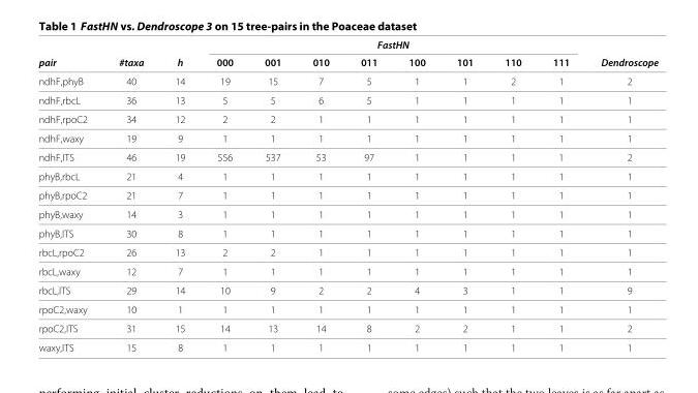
<table><thead><tr><td rowspan="2">pair</td><td rowspan="2">#taxa</td><td rowspan="2">h</td><td colspan="8">FastHN</td><td rowspan="2">Dendroscope</td></tr><tr><td>000</td><td>001</td><td>010</td><td>011</td><td>100</td><td>101</td><td>110</td><td>111</td></tr></thead><tbody><tr><td>ndhF,phyB</td><td>40</td><td>14</td><td>19</td><td>15</td><td>7</td><td>5</td><td>1</td><td>1</td><td>2</td><td>1</td><td>2</td></tr><tr><td>ndhF,rbcL</td><td>36</td><td>13</td><td>5</td><td>5</td><td>6</td><td>5</td><td>1</td><td>1</td><td>1</td><td>1</td><td>1</td></tr><tr><td>ndhF,rpoC2</td><td>34</td><td>12</td><td>2</td><td>2</td><td>1</td><td>1</td><td>1</td><td>1</td><td>1</td><td>1</td><td>1</td></tr><tr><td>ndhF,waxy</td><td>19</td><td>9</td><td>1</td><td>1</td><td>1</td><td>1</td><td>1</td><td>1</td><td>1</td><td>1</td><td>1</td></tr><tr><td>ndhF,ITS</td><td>46</td><td>19</td><td>556</td><td>537</td><td>53</td><td>97</td><td>1</td><td>1</td><td>1</td><td>1</td><td>2</td></tr><tr><td>phyB,rbcL</td><td>21</td><td>4</td><td>1</td><td>1</td><td>1</td><td>1</td><td>1</td><td>1</td><td>1</td><td>1</td><td>1</td></tr><tr><td>phyB,rpoC2</td><td>21</td><td>7</td><td>1</td><td>1</td><td>1</td><td>1</td><td>1</td><td>1</td><td>1</td><td>1</td><td>1</td></tr><tr><td>phyB,waxy</td><td>14</td><td>3</td><td>1</td><td>1</td><td>1</td><td>1</td><td>1</td><td>1</td><td>1</td><td>1</td><td>1</td></tr><tr><td>phyB,ITS</td><td>30</td><td>8</td><td>1</td><td>1</td><td>1</td><td>1</td><td>1</td><td>1</td><td>1</td><td>1</td><td>1</td></tr><tr><td>rbcL,rpoC2</td><td>26</td><td>13</td><td>2</td><td>2</td><td>1</td><td>1</td><td>1</td><td>1</td><td>1</td><td>1</td><td>1</td></tr><tr><td>rbcL,waxy</td><td>12</td><td>7</td><td>1</td><td>1</td><td>1</td><td>1</td><td>1</td><td>1</td><td>1</td><td>1</td><td>1</td></tr><tr><td>rbcL,ITS</td><td>29</td><td>14</td><td>10</td><td>9</td><td>2</td><td>2</td><td>4</td><td>3</td><td>1</td><td>1</td><td>9</td></tr><tr><td>rpoC2,waxy</td><td>10</td><td>1</td><td>1</td><td>1</td><td>1</td><td>1</td><td>1</td><td>1</td><td>1</td><td>1</td><td>1</td></tr><tr><td>rpoC2,ITS</td><td>31</td><td>15</td><td>14</td><td>13</td><td>14</td><td>8</td><td>2</td><td>2</td><td>1</td><td>1</td><td>2</td></tr><tr><td>waxy,ITS</td><td>15</td><td>8</td><td>1</td><td>1</td><td>1</td><td>1</td><td>1</td><td>1</td><td>1</td><td>1</td><td>1</td></tr></tbody></table>